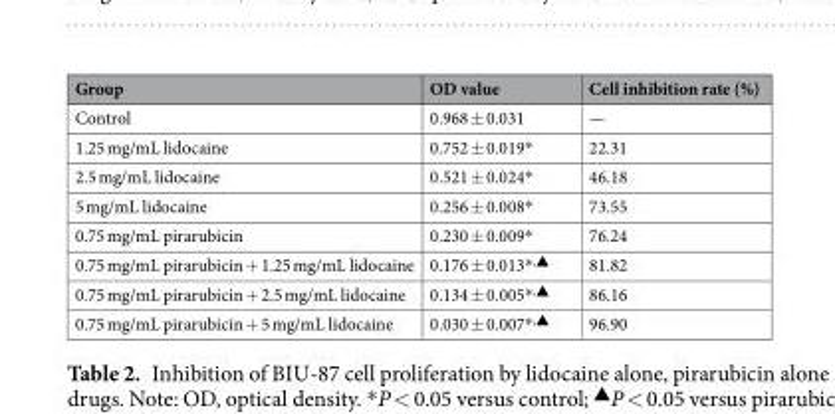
<table><thead><tr><td>Group</td><td>OD value</td><td>Cell inhibition rate (%)</td></tr></thead><tbody><tr><td>Control</td><td>0.968 ± 0.031</td><td>—</td></tr><tr><td>1.25 mg/mL lidocaine</td><td>0.752 ± 0.019*</td><td>22.31</td></tr><tr><td>2.5 mg/mL lidocaine</td><td>0.521 ± 0.024*</td><td>46.18</td></tr><tr><td>5 mg/mL lidocaine</td><td>0.256 ± 0.008*</td><td>73.55</td></tr><tr><td>0.75 mg/mL pirarubicin</td><td>0.230 ± 0.009*</td><td>76.24</td></tr><tr><td>0.75 mg/mL pirarubicin + 1.25 mg/mL lidocaine</td><td>0.176 ± 0.013*<sup>,▲</sup></td><td>81.82</td></tr><tr><td>0.75 mg/mL pirarubicin + 2.5 mg/mL lidocaine</td><td>0.134 ± 0.005*<sup>,▲</sup></td><td>86.16</td></tr><tr><td>0.75 mg/mL pirarubicin + 5 mg/mL lidocaine</td><td>0.030 ± 0.007*<sup>,▲</sup></td><td>96.90</td></tr></tbody></table>